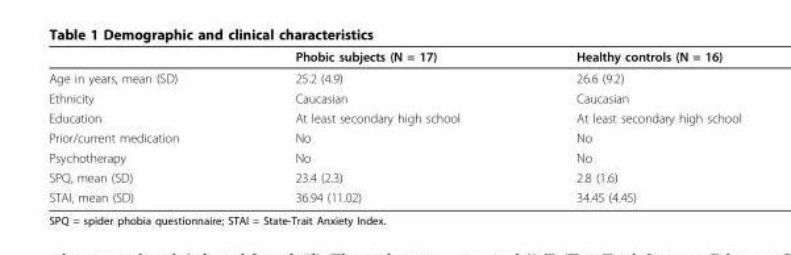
<table><thead><tr><td></td><td>Phobic subjects (N = 17)</td><td>Healthy controls (N = 16)</td></tr></thead><tbody><tr><td>Age in years, mean (SD)</td><td>25.2 (4.9)</td><td>26.6 (9.2)</td></tr><tr><td>Ethnicity</td><td>Caucasian</td><td>Caucasian</td></tr><tr><td>Education</td><td>At least secondary high school</td><td>At least secondary high school</td></tr><tr><td>Prior/current medication</td><td>No</td><td>No</td></tr><tr><td>Psychotherapy</td><td>No</td><td>No</td></tr><tr><td>SPQ, mean (SD)</td><td>23.4 (2.3)</td><td>2.8 (1.6)</td></tr><tr><td>STAI, mean (SD)</td><td>36.94 (11.02)</td><td>34.45 (4.45)</td></tr></tbody></table>